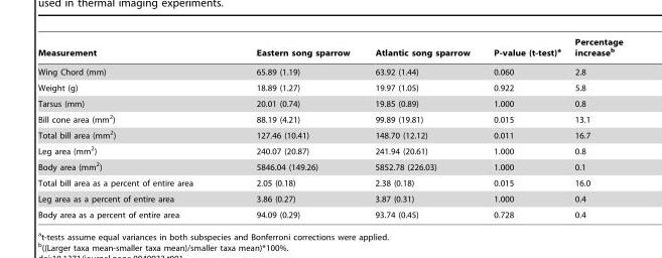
<table><thead><tr><td>Measurement</td><td>Eastern song sparrow</td><td>Atlantic song sparrow</td><td>P-value (t-test)<sup>a</sup></td><td>Percentage increase<sup>b</sup></td></tr></thead><tbody><tr><td>Wing Chord (mm)</td><td>65.89 (1.19)</td><td>63.92 (1.44)</td><td>0.060</td><td>2.8</td></tr><tr><td>Weight (g)</td><td>18.89 (1.27)</td><td>19.97 (1.05)</td><td>0.922</td><td>5.8</td></tr><tr><td>Tarsus (mm)</td><td>20.01 (0.74)</td><td>19.85 (0.89)</td><td>1.000</td><td>0.8</td></tr><tr><td>Bill cone area (mm<sup>2</sup>)</td><td>88.19 (4.21)</td><td>99.89 (19.81)</td><td>0.015</td><td>13.1</td></tr><tr><td>Total bill area (mm<sup>2</sup>)</td><td>127.46 (10.41)</td><td>148.70 (12.12)</td><td>0.011</td><td>16.7</td></tr><tr><td>Leg area (mm<sup>2</sup>)</td><td>240.07 (20.87)</td><td>241.94 (20.61)</td><td>1.000</td><td>0.8</td></tr><tr><td>Body area (mm<sup>2</sup>)</td><td>5846.04 (149.26)</td><td>5852.78 (226.03)</td><td>1.000</td><td>0.1</td></tr><tr><td>Total bill area as a percent of entire area</td><td>2.05 (0.18)</td><td>2.38 (0.18)</td><td>0.015</td><td>16.0</td></tr><tr><td>Leg area as a percent of entire area</td><td>3.86 (0.27)</td><td>3.87 (0.31)</td><td>1.000</td><td>0.4</td></tr><tr><td>Body area as a percent of entire area</td><td>94.09 (0.29)</td><td>93.74 (0.45)</td><td>0.728</td><td>0.4</td></tr></tbody></table>